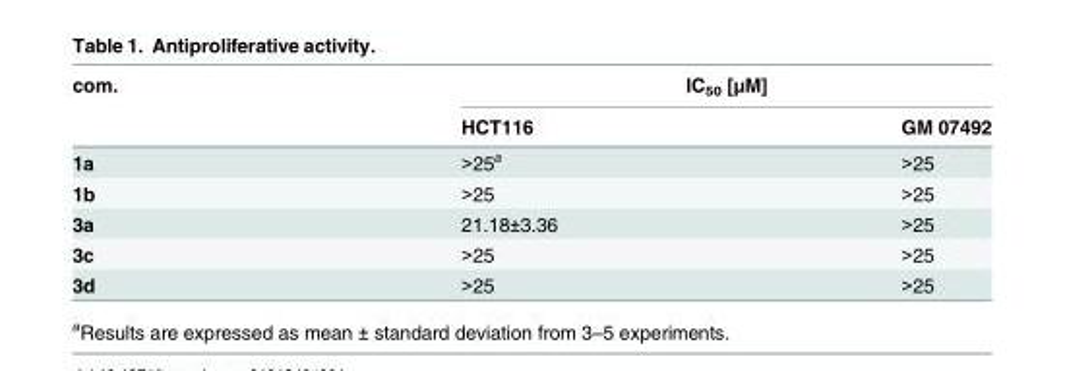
<table><thead><tr><td rowspan="2">com.</td><td colspan="2">IC<sub>50</sub> [μM]</td></tr><tr><td>HCT116</td><td>GM 07492</td></tr></thead><tbody><tr><td>1a</td><td>&gt;25<sup>a</sup></td><td>&gt;25</td></tr><tr><td>1b</td><td>&gt;25</td><td>&gt;25</td></tr><tr><td>3a</td><td>21.18±3.36</td><td>&gt;25</td></tr><tr><td>3c</td><td>&gt;25</td><td>&gt;25</td></tr><tr><td>3d</td><td>&gt;25</td><td>&gt;25</td></tr></tbody></table>